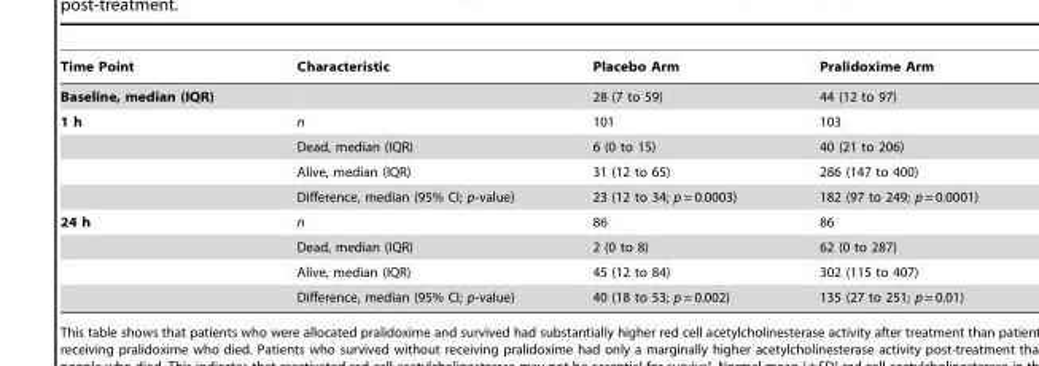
<table><thead><tr><td>Time Point</td><td>Characteristic</td><td>Placebo Arm</td><td>Pralidoxime Arm</td></tr></thead><tbody><tr><td>Baseline, median (IQR)</td><td></td><td>28 (7 to 59)</td><td>44 (12 to 97)</td></tr><tr><td rowspan="4">1 h</td><td>n</td><td>101</td><td>103</td></tr><tr><td>Dead, median (IQR)</td><td>6 (0 to 15)</td><td>40 (21 to 206)</td></tr><tr><td>Alive, median (IQR)</td><td>31 (12 to 65)</td><td>286 (147 to 400)</td></tr><tr><td>Difference, median (95% CI; p-value)</td><td>23 (12 to 34; p = 0.0003)</td><td>182 (97 to 249; p = 0.0001)</td></tr><tr><td rowspan="4">24 h</td><td>n</td><td>86</td><td>86</td></tr><tr><td>Dead, median (IQR)</td><td>2 (0 to 8)</td><td>62 (0 to 287)</td></tr><tr><td>Alive, median (IQR)</td><td>45 (12 to 84)</td><td>302 (115 to 407)</td></tr><tr><td>Difference, median (95% CI; p-value)</td><td>40 (18 to 53; p = 0.002)</td><td>135 (27 to 251; p = 0.01)</td></tr></tbody></table>